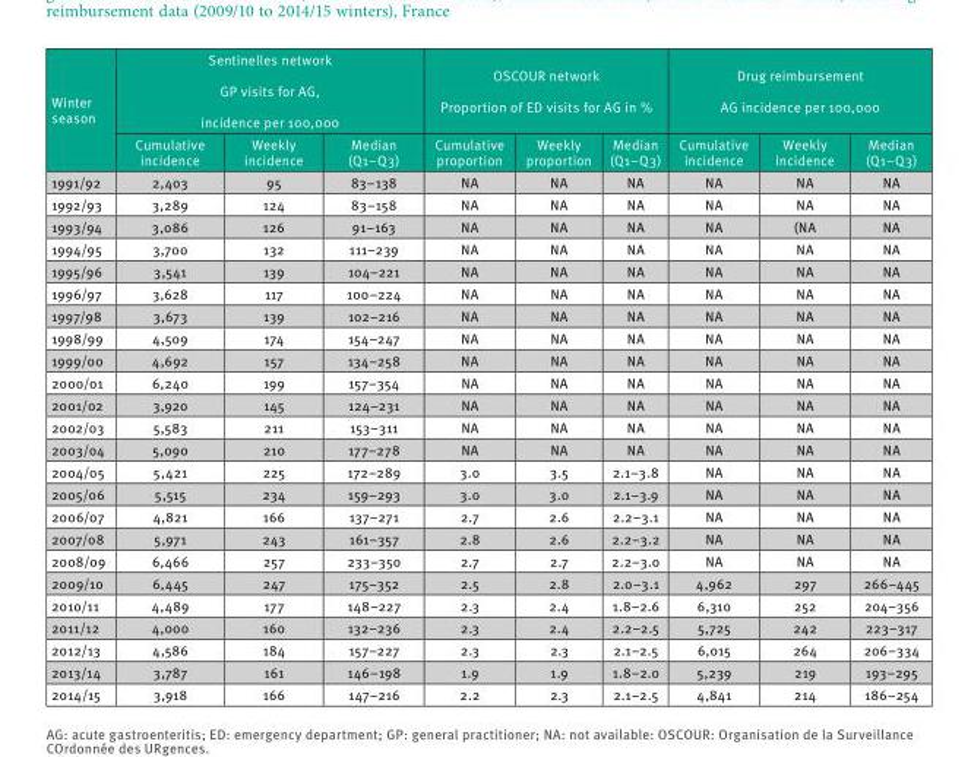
<table><thead><tr><td rowspan="2">Winter season</td><td colspan="3">Sentinelles network GP visits for AG, incidence per 100,000</td><td colspan="3">OSCOUR network Proportion of ED visits for AG in %</td><td colspan="3">Drug reimbursement AG incidence per 100,000</td></tr><tr><td>Cumulative incidence</td><td>Weekly incidence</td><td>Median (Q1–Q3)</td><td>Cumulative proportion</td><td>Weekly proportion</td><td>Median (Q1–Q3)</td><td>Cumulative incidence</td><td>Weekly incidence</td><td>Median (Q1–Q3)</td></tr></thead><tbody><tr><td>1991/92</td><td>2,403</td><td>95</td><td>83–138</td><td>NA</td><td>NA</td><td>NA</td><td>NA</td><td>NA</td><td>NA</td></tr><tr><td>1992/93</td><td>3,289</td><td>124</td><td>83–158</td><td>NA</td><td>NA</td><td>NA</td><td>NA</td><td>NA</td><td>NA</td></tr><tr><td>1993/94</td><td>3,086</td><td>126</td><td>91–163</td><td>NA</td><td>NA</td><td>NA</td><td>NA</td><td>(NA</td><td>NA</td></tr><tr><td>1994/95</td><td>3,700</td><td>132</td><td>111–239</td><td>NA</td><td>NA</td><td>NA</td><td>NA</td><td>NA</td><td>NA</td></tr><tr><td>1995/96</td><td>3,541</td><td>139</td><td>104–221</td><td>NA</td><td>NA</td><td>NA</td><td>NA</td><td>NA</td><td>NA</td></tr><tr><td>1996/97</td><td>3,628</td><td>117</td><td>100–224</td><td>NA</td><td>NA</td><td>NA</td><td>NA</td><td>NA</td><td>NA</td></tr><tr><td>1997/98</td><td>3,673</td><td>139</td><td>102–216</td><td>NA</td><td>NA</td><td>NA</td><td>NA</td><td>NA</td><td>NA</td></tr><tr><td>1998/99</td><td>4,509</td><td>174</td><td>154–247</td><td>NA</td><td>NA</td><td>NA</td><td>NA</td><td>NA</td><td>NA</td></tr><tr><td>1999/00</td><td>4,692</td><td>157</td><td>134–258</td><td>NA</td><td>NA</td><td>NA</td><td>NA</td><td>NA</td><td>NA</td></tr><tr><td>2000/01</td><td>6,240</td><td>199</td><td>157–354</td><td>NA</td><td>NA</td><td>NA</td><td>NA</td><td>NA</td><td>NA</td></tr><tr><td>2001/02</td><td>3,920</td><td>145</td><td>124–231</td><td>NA</td><td>NA</td><td>NA</td><td>NA</td><td>NA</td><td>NA</td></tr><tr><td>2002/03</td><td>5,583</td><td>211</td><td>153–311</td><td>NA</td><td>NA</td><td>NA</td><td>NA</td><td>NA</td><td>NA</td></tr><tr><td>2003/04</td><td>5,090</td><td>210</td><td>177–278</td><td>NA</td><td>NA</td><td>NA</td><td>NA</td><td>NA</td><td>NA</td></tr><tr><td>2004/05</td><td>5,421</td><td>225</td><td>172–289</td><td>3.0</td><td>3.5</td><td>2.1–3.8</td><td>NA</td><td>NA</td><td>NA</td></tr><tr><td>2005/06</td><td>5,515</td><td>234</td><td>159–293</td><td>3.0</td><td>3.0</td><td>2.1–3.9</td><td>NA</td><td>NA</td><td>NA</td></tr><tr><td>2006/07</td><td>4,821</td><td>166</td><td>137–271</td><td>2.7</td><td>2.6</td><td>2.2–3.1</td><td>NA</td><td>NA</td><td>NA</td></tr><tr><td>2007/08</td><td>5,971</td><td>243</td><td>161–357</td><td>2.8</td><td>2.6</td><td>2.2–3.2</td><td>NA</td><td>NA</td><td>NA</td></tr><tr><td>2008/09</td><td>6,466</td><td>257</td><td>233–350</td><td>2.7</td><td>2.7</td><td>2.2–3.0</td><td>NA</td><td>NA</td><td>NA</td></tr><tr><td>2009/10</td><td>6,445</td><td>247</td><td>175–352</td><td>2.5</td><td>2.8</td><td>2.0–3.1</td><td>4,962</td><td>297</td><td>266–445</td></tr><tr><td>2010/11</td><td>4,489</td><td>177</td><td>148–227</td><td>2.3</td><td>2.4</td><td>1.8–2.6</td><td>6,310</td><td>252</td><td>204–356</td></tr><tr><td>2011/12</td><td>4,000</td><td>160</td><td>132–236</td><td>2.3</td><td>2.4</td><td>2.2–2.5</td><td>5,725</td><td>242</td><td>223–317</td></tr><tr><td>2012/13</td><td>4,586</td><td>184</td><td>157–227</td><td>2.3</td><td>2.3</td><td>2.1–2.5</td><td>6,015</td><td>264</td><td>206–334</td></tr><tr><td>2013/14</td><td>3,787</td><td>161</td><td>146–198</td><td>1.9</td><td>1.9</td><td>1.8–2.0</td><td>5,239</td><td>219</td><td>193–295</td></tr><tr><td>2014/15</td><td>3,918</td><td>166</td><td>147–216</td><td>2.2</td><td>2.3</td><td>2.1–2.5</td><td>4,841</td><td>214</td><td>186–254</td></tr></tbody></table>